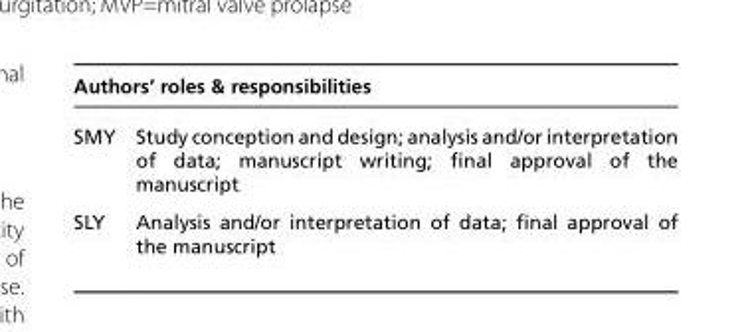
<table><thead><tr><td colspan="2">Authors’ roles &amp; responsibilities</td></tr><tr><td>SMY</td><td>Study conception and design; analysis and/or interpretation of data; manuscript writing; final approval of the manuscript</td></tr></thead><tbody><tr><td>SLY</td><td>Analysis and/or interpretation of data; final approval of the manuscript</td></tr></tbody></table>